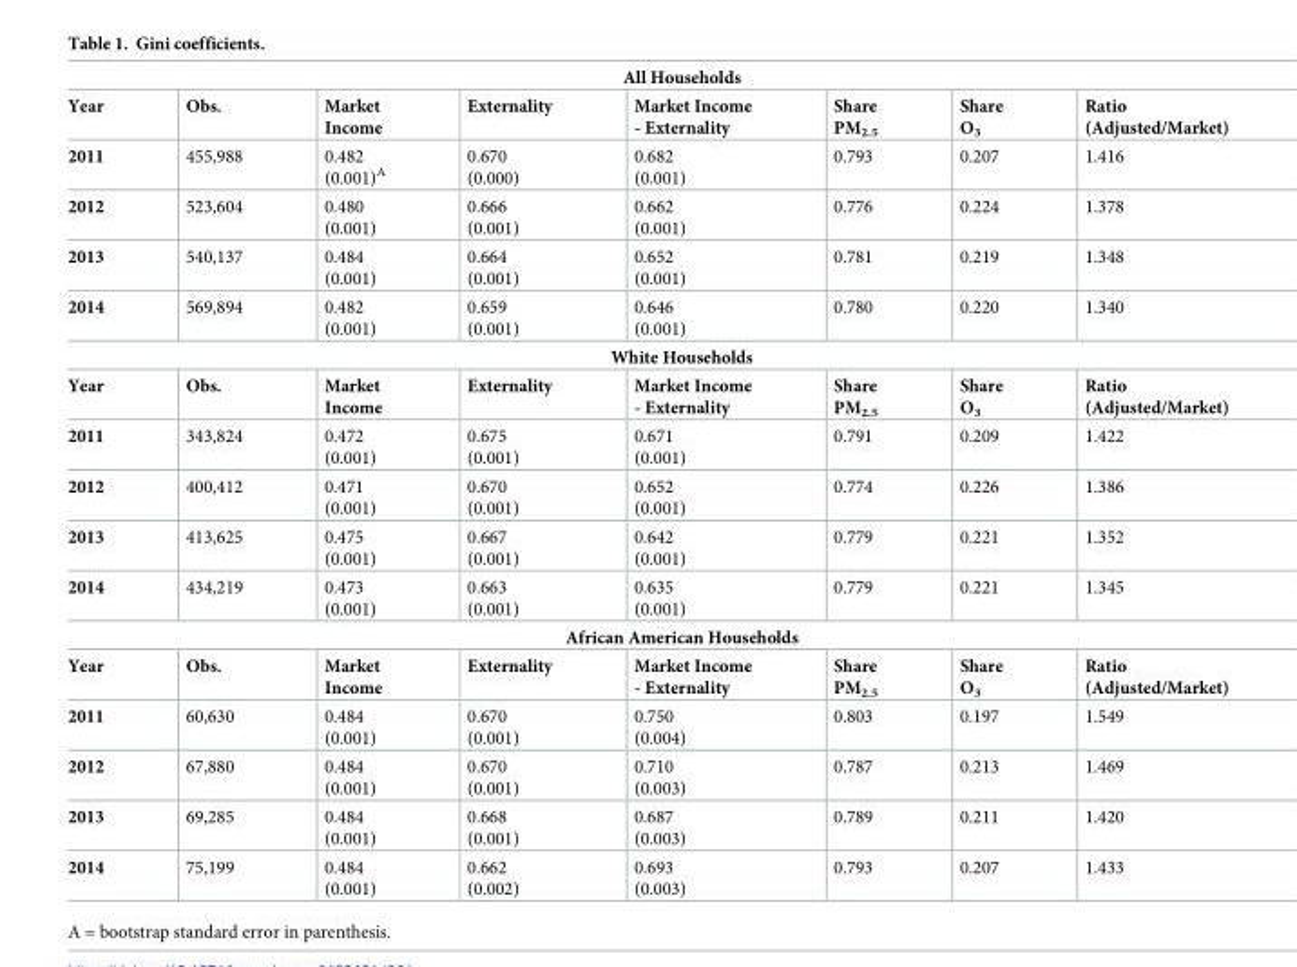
<table><tbody><tr><td colspan="8">All Households</td></tr><tr><td>Year</td><td>Obs.</td><td>Market Income</td><td>Externality</td><td>Market Income - Externality</td><td>Share PM<sub>2.5</sub></td><td>Share O<sub>3</sub></td><td>Ratio (Adjusted/Market)</td></tr><tr><td>2011</td><td>455,988</td><td>0.482 (0.001)<sup>A</sup></td><td>0.670 (0.000)</td><td>0.682 (0.001)</td><td>0.793</td><td>0.207</td><td>1.416</td></tr><tr><td>2012</td><td>523,604</td><td>0.480 (0.001)</td><td>0.666 (0.001)</td><td>0.662 (0.001)</td><td>0.776</td><td>0.224</td><td>1.378</td></tr><tr><td>2013</td><td>540,137</td><td>0.484 (0.001)</td><td>0.664 (0.001)</td><td>0.652 (0.001)</td><td>0.781</td><td>0.219</td><td>1.348</td></tr><tr><td>2014</td><td>569,894</td><td>0.482 (0.001)</td><td>0.659 (0.001)</td><td>0.646 (0.001)</td><td>0.780</td><td>0.220</td><td>1.340</td></tr><tr><td colspan="8">White Households</td></tr><tr><td>Year</td><td>Obs.</td><td>Market Income</td><td>Externality</td><td>Market Income - Externality</td><td>Share PM<sub>2.5</sub></td><td>Share O<sub>3</sub></td><td>Ratio (Adjusted/Market)</td></tr><tr><td>2011</td><td>343,824</td><td>0.472 (0.001)</td><td>0.675 (0.001)</td><td>0.671 (0.001)</td><td>0.791</td><td>0.209</td><td>1.422</td></tr><tr><td>2012</td><td>400,412</td><td>0.471 (0.001)</td><td>0.670 (0.001)</td><td>0.652 (0.001)</td><td>0.774</td><td>0.226</td><td>1.386</td></tr><tr><td>2013</td><td>413,625</td><td>0.475 (0.001)</td><td>0.667 (0.001)</td><td>0.642 (0.001)</td><td>0.779</td><td>0.221</td><td>1.352</td></tr><tr><td>2014</td><td>434,219</td><td>0.473 (0.001)</td><td>0.663 (0.001)</td><td>0.635 (0.001)</td><td>0.779</td><td>0.221</td><td>1.345</td></tr><tr><td colspan="8">African American Households</td></tr><tr><td>Year</td><td>Obs.</td><td>Market Income</td><td>Externality</td><td>Market Income - Externality</td><td>Share PM<sub>2.5</sub></td><td>Share O<sub>3</sub></td><td>Ratio (Adjusted/Market)</td></tr><tr><td>2011</td><td>60,630</td><td>0.484 (0.001)</td><td>0.670 (0.001)</td><td>0.750 (0.004)</td><td>0.803</td><td>0.197</td><td>1.549</td></tr><tr><td>2012</td><td>67,880</td><td>0.484 (0.001)</td><td>0.670 (0.001)</td><td>0.710 (0.003)</td><td>0.787</td><td>0.213</td><td>1.469</td></tr><tr><td>2013</td><td>69,285</td><td>0.484 (0.001)</td><td>0.668 (0.001)</td><td>0.687 (0.003)</td><td>0.789</td><td>0.211</td><td>1.420</td></tr><tr><td>2014</td><td>75,199</td><td>0.484 (0.001)</td><td>0.662 (0.002)</td><td>0.693 (0.003)</td><td>0.793</td><td>0.207</td><td>1.433</td></tr></tbody></table>